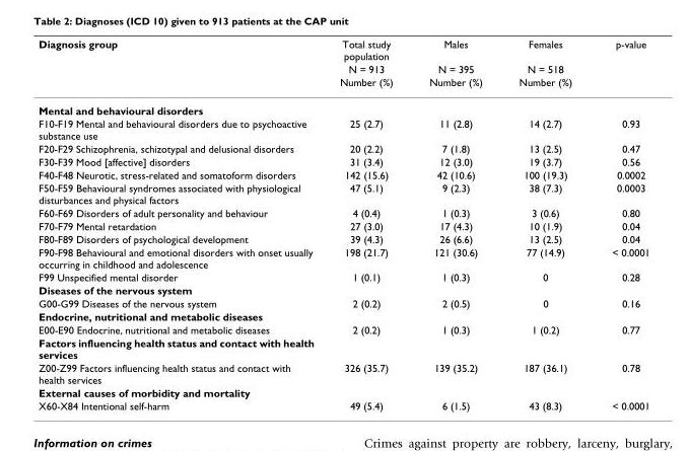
<table><thead><tr><td rowspan="3">Diagnosis group</td><td rowspan="3">Total study population N = 913 Number (%)</td><td rowspan="3">Males N = 395 Number (%)</td><td rowspan="3">Females N = 518 Number (%)</td><td rowspan="3">p-value</td></tr><tr></tr><tr></tr></thead><tbody><tr><td colspan="5">Mental and behavioural disorders</td></tr><tr><td>F10-F19 Mental and behavioural disorders due to psychoactive substance use</td><td>25 (2.7)</td><td>11 (2.8)</td><td>14 (2.7)</td><td>0.93</td></tr><tr><td>F20-F29 Schizophrenia, schizotypal and delusional disorders</td><td>20 (2.2)</td><td>7 (1.8)</td><td>13 (2.5)</td><td>0.47</td></tr><tr><td>F30-F39 Mood [affective] disorders</td><td>31 (3.4)</td><td>12 (3.0)</td><td>19 (3.7)</td><td>0.56</td></tr><tr><td>F40-F48 Neurotic, stress-related and somatoform disorders</td><td>142 (15.6)</td><td>42 (10.6)</td><td>100 (19.3)</td><td>0.0002</td></tr><tr><td>F50-F59 Behavioural syndromes associated with physiological disturbances and physical factors</td><td>47 (5.1)</td><td>9 (2.3)</td><td>38 (7.3)</td><td>0.0003</td></tr><tr><td>F60-F69 Disorders of adult personality and behaviour</td><td>4 (0.4)</td><td>1 (0.3)</td><td>3 (0.6)</td><td>0.80</td></tr><tr><td>F70-F79 Mental retardation</td><td>27 (3.0)</td><td>17 (4.3)</td><td>10 (1.9)</td><td>0.04</td></tr><tr><td>F80-F89 Disorders of psychological development</td><td>39 (4.3)</td><td>26 (6.6)</td><td>13 (2.5)</td><td>0.04</td></tr><tr><td>F90-F98 Behavioural and emotional disorders with onset usually occurring in childhood and adolescence</td><td>198 (21.7)</td><td>121 (30.6)</td><td>77 (14.9)</td><td>&lt; 0.0001</td></tr><tr><td>F99 Unspecified mental disorder</td><td>1 (0.1)</td><td>1 (0.3)</td><td>0</td><td>0.28</td></tr><tr><td colspan="5">Diseases of the nervous system</td></tr><tr><td>G00-G99 Diseases of the nervous system</td><td>2 (0.2)</td><td>2 (0.5)</td><td>0</td><td>0.16</td></tr><tr><td colspan="5">Endocrine, nutritional and metabolic diseases</td></tr><tr><td>E00-E90 Endocrine, nutritional and metabolic diseases</td><td>2 (0.2)</td><td>1 (0.3)</td><td>1 (0.2)</td><td>0.77</td></tr><tr><td colspan="5">Factors influencing health status and contact with health services</td></tr><tr><td>Z00-Z99 Factors influencing health status and contact with health services</td><td>326 (35.7)</td><td>139 (35.2)</td><td>187 (36.1)</td><td>0.78</td></tr><tr><td colspan="5">External causes of morbidity and mortality</td></tr><tr><td>X60-X84 Intentional self-harm</td><td>49 (5.4)</td><td>6 (1.5)</td><td>43 (8.3)</td><td>&lt; 0.0001</td></tr></tbody></table>